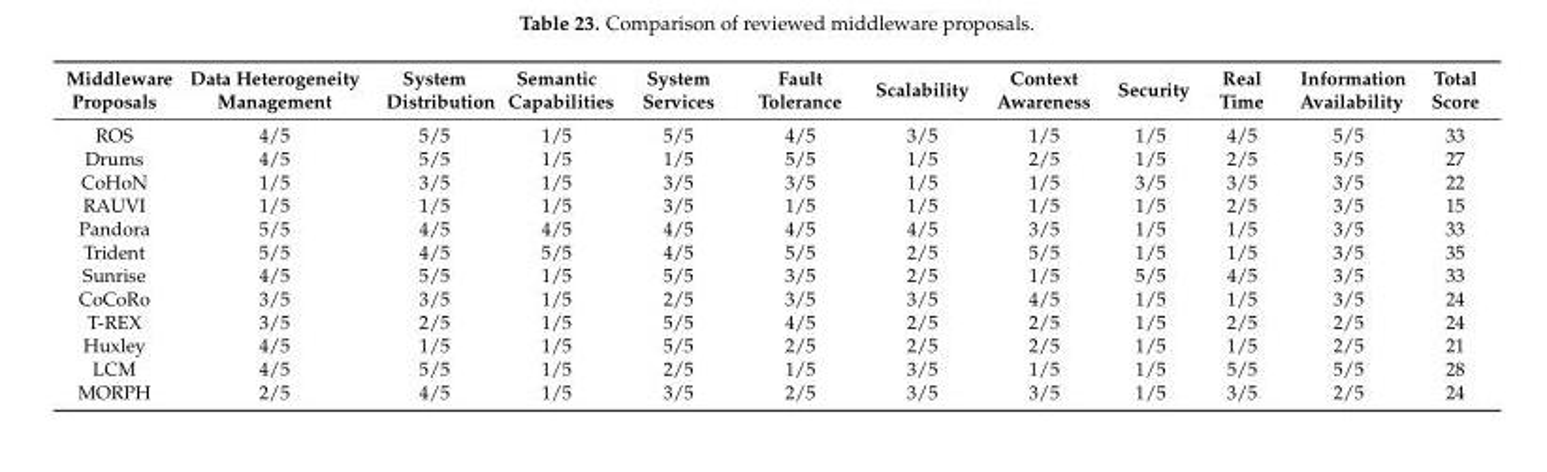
<table><thead><tr><td>Middleware Proposals</td><td>Data Heterogeneity Management</td><td>System Distribution</td><td>Semantic Capabilities</td><td>System Services</td><td>Fault Tolerance</td><td>Scalability</td><td>Context Awareness</td><td>Security</td><td>Real Time</td><td>Information Availability</td><td>Total Score</td></tr></thead><tbody><tr><td>ROS</td><td>4/5</td><td>5/5</td><td>1/5</td><td>5/5</td><td>4/5</td><td>3/5</td><td>1/5</td><td>1/5</td><td>4/5</td><td>5/5</td><td>33</td></tr><tr><td>Drums</td><td>4/5</td><td>5/5</td><td>1/5</td><td>1/5</td><td>5/5</td><td>1/5</td><td>2/5</td><td>1/5</td><td>2/5</td><td>5/5</td><td>27</td></tr><tr><td>CoHoN</td><td>1/5</td><td>3/5</td><td>1/5</td><td>3/5</td><td>3/5</td><td>1/5</td><td>1/5</td><td>3/5</td><td>3/5</td><td>3/5</td><td>22</td></tr><tr><td>RAUVI</td><td>1/5</td><td>1/5</td><td>1/5</td><td>3/5</td><td>1/5</td><td>1/5</td><td>1/5</td><td>1/5</td><td>2/5</td><td>3/5</td><td>15</td></tr><tr><td>Pandora</td><td>5/5</td><td>4/5</td><td>4/5</td><td>4/5</td><td>4/5</td><td>4/5</td><td>3/5</td><td>1/5</td><td>1/5</td><td>3/5</td><td>33</td></tr><tr><td>Trident</td><td>5/5</td><td>4/5</td><td>5/5</td><td>4/5</td><td>5/5</td><td>2/5</td><td>5/5</td><td>1/5</td><td>1/5</td><td>3/5</td><td>35</td></tr><tr><td>Sunrise</td><td>4/5</td><td>5/5</td><td>1/5</td><td>5/5</td><td>3/5</td><td>2/5</td><td>1/5</td><td>5/5</td><td>4/5</td><td>3/5</td><td>33</td></tr><tr><td>CoCoRo</td><td>3/5</td><td>3/5</td><td>1/5</td><td>2/5</td><td>3/5</td><td>3/5</td><td>4/5</td><td>1/5</td><td>1/5</td><td>3/5</td><td>24</td></tr><tr><td>T-REX</td><td>3/5</td><td>2/5</td><td>1/5</td><td>5/5</td><td>4/5</td><td>2/5</td><td>2/5</td><td>1/5</td><td>2/5</td><td>2/5</td><td>24</td></tr><tr><td>Huxley</td><td>4/5</td><td>1/5</td><td>1/5</td><td>5/5</td><td>2/5</td><td>2/5</td><td>2/5</td><td>1/5</td><td>1/5</td><td>2/5</td><td>21</td></tr><tr><td>LCM</td><td>4/5</td><td>5/5</td><td>1/5</td><td>2/5</td><td>1/5</td><td>3/5</td><td>1/5</td><td>1/5</td><td>5/5</td><td>5/5</td><td>28</td></tr><tr><td>MORPH</td><td>2/5</td><td>4/5</td><td>1/5</td><td>3/5</td><td>2/5</td><td>3/5</td><td>3/5</td><td>1/5</td><td>3/5</td><td>2/5</td><td>24</td></tr></tbody></table>